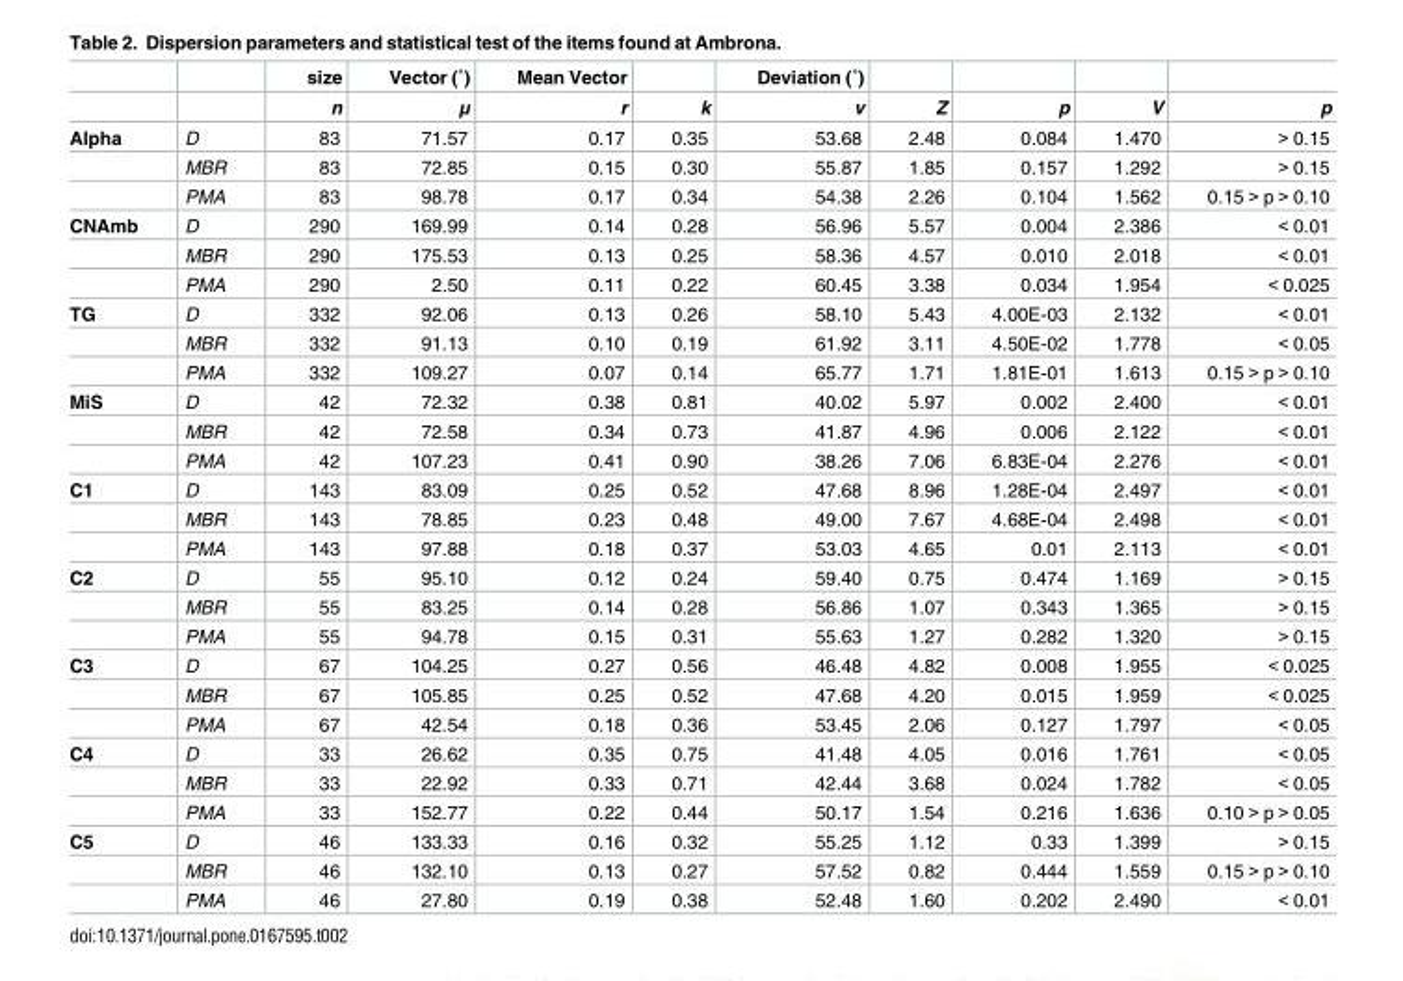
<table><thead><tr><td rowspan="2"></td><td rowspan="2"></td><td rowspan="2">size n</td><td rowspan="2">Vector (˚) μ</td><td rowspan="2">Mean Vector r</td><td rowspan="2">k</td><td rowspan="2">Deviation (˚) v</td><td rowspan="2">Z</td><td rowspan="2">p</td><td rowspan="2">V</td><td rowspan="2">p</td></tr><tr></tr></thead><tbody><tr><td rowspan="3">Alpha</td><td>D</td><td>83</td><td>71.57</td><td>0.17</td><td>0.35</td><td>53.68</td><td>2.48</td><td>0.084</td><td>1.470</td><td>&gt; 0.15</td></tr><tr><td>MBR</td><td>83</td><td>72.85</td><td>0.15</td><td>0.30</td><td>55.87</td><td>1.85</td><td>0.157</td><td>1.292</td><td>&gt; 0.15</td></tr><tr><td>PMA</td><td>83</td><td>98.78</td><td>0.17</td><td>0.34</td><td>54.38</td><td>2.26</td><td>0.104</td><td>1.562</td><td>0.15 &gt; p &gt; 0.10</td></tr><tr><td rowspan="3">CNAmb</td><td>D</td><td>290</td><td>169.99</td><td>0.14</td><td>0.28</td><td>56.96</td><td>5.57</td><td>0.004</td><td>2.386</td><td>&lt; 0.01</td></tr><tr><td>MBR</td><td>290</td><td>175.53</td><td>0.13</td><td>0.25</td><td>58.36</td><td>4.57</td><td>0.010</td><td>2.018</td><td>&lt; 0.01</td></tr><tr><td>PMA</td><td>290</td><td>2.50</td><td>0.11</td><td>0.22</td><td>60.45</td><td>3.38</td><td>0.034</td><td>1.954</td><td>&lt; 0.025</td></tr><tr><td rowspan="3">TG</td><td>D</td><td>332</td><td>92.06</td><td>0.13</td><td>0.26</td><td>58.10</td><td>5.43</td><td>4.00E-03</td><td>2.132</td><td>&lt; 0.01</td></tr><tr><td>MBR</td><td>332</td><td>91.13</td><td>0.10</td><td>0.19</td><td>61.92</td><td>3.11</td><td>4.50E-02</td><td>1.778</td><td>&lt; 0.05</td></tr><tr><td>PMA</td><td>332</td><td>109.27</td><td>0.07</td><td>0.14</td><td>65.77</td><td>1.71</td><td>1.81E-01</td><td>1.613</td><td>0.15 &gt; p &gt; 0.10</td></tr><tr><td rowspan="3">MiS</td><td>D</td><td>42</td><td>72.32</td><td>0.38</td><td>0.81</td><td>40.02</td><td>5.97</td><td>0.002</td><td>2.400</td><td>&lt; 0.01</td></tr><tr><td>MBR</td><td>42</td><td>72.58</td><td>0.34</td><td>0.73</td><td>41.87</td><td>4.96</td><td>0.006</td><td>2.122</td><td>&lt; 0.01</td></tr><tr><td>PMA</td><td>42</td><td>107.23</td><td>0.41</td><td>0.90</td><td>38.26</td><td>7.06</td><td>6.83E-04</td><td>2.276</td><td>&lt; 0.01</td></tr><tr><td rowspan="3">C1</td><td>D</td><td>143</td><td>83.09</td><td>0.25</td><td>0.52</td><td>47.68</td><td>8.96</td><td>1.28E-04</td><td>2.497</td><td>&lt; 0.01</td></tr><tr><td>MBR</td><td>143</td><td>78.85</td><td>0.23</td><td>0.48</td><td>49.00</td><td>7.67</td><td>4.68E-04</td><td>2.498</td><td>&lt; 0.01</td></tr><tr><td>PMA</td><td>143</td><td>97.88</td><td>0.18</td><td>0.37</td><td>53.03</td><td>4.65</td><td>0.01</td><td>2.113</td><td>&lt; 0.01</td></tr><tr><td rowspan="3">C2</td><td>D</td><td>55</td><td>95.10</td><td>0.12</td><td>0.24</td><td>59.40</td><td>0.75</td><td>0.474</td><td>1.169</td><td>&gt; 0.15</td></tr><tr><td>MBR</td><td>55</td><td>83.25</td><td>0.14</td><td>0.28</td><td>56.86</td><td>1.07</td><td>0.343</td><td>1.365</td><td>&gt; 0.15</td></tr><tr><td>PMA</td><td>55</td><td>94.78</td><td>0.15</td><td>0.31</td><td>55.63</td><td>1.27</td><td>0.282</td><td>1.320</td><td>&gt; 0.15</td></tr><tr><td rowspan="3">C3</td><td>D</td><td>67</td><td>104.25</td><td>0.27</td><td>0.56</td><td>46.48</td><td>4.82</td><td>0.008</td><td>1.955</td><td>&lt; 0.025</td></tr><tr><td>MBR</td><td>67</td><td>105.85</td><td>0.25</td><td>0.52</td><td>47.68</td><td>4.20</td><td>0.015</td><td>1.959</td><td>&lt; 0.025</td></tr><tr><td>PMA</td><td>67</td><td>42.54</td><td>0.18</td><td>0.36</td><td>53.45</td><td>2.06</td><td>0.127</td><td>1.797</td><td>&lt; 0.05</td></tr><tr><td rowspan="3">C4</td><td>D</td><td>33</td><td>26.62</td><td>0.35</td><td>0.75</td><td>41.48</td><td>4.05</td><td>0.016</td><td>1.761</td><td>&lt; 0.05</td></tr><tr><td>MBR</td><td>33</td><td>22.92</td><td>0.33</td><td>0.71</td><td>42.44</td><td>3.68</td><td>0.024</td><td>1.782</td><td>&lt; 0.05</td></tr><tr><td>PMA</td><td>33</td><td>152.77</td><td>0.22</td><td>0.44</td><td>50.17</td><td>1.54</td><td>0.216</td><td>1.636</td><td>0.10 &gt; p &gt; 0.05</td></tr><tr><td rowspan="3">C5</td><td>D</td><td>46</td><td>133.33</td><td>0.16</td><td>0.32</td><td>55.25</td><td>1.12</td><td>0.33</td><td>1.399</td><td>&gt; 0.15</td></tr><tr><td>MBR</td><td>46</td><td>132.10</td><td>0.13</td><td>0.27</td><td>57.52</td><td>0.82</td><td>0.444</td><td>1.559</td><td>0.15 &gt; p &gt; 0.10</td></tr><tr><td>PMA</td><td>46</td><td>27.80</td><td>0.19</td><td>0.38</td><td>52.48</td><td>1.60</td><td>0.202</td><td>2.490</td><td>&lt; 0.01</td></tr></tbody></table>